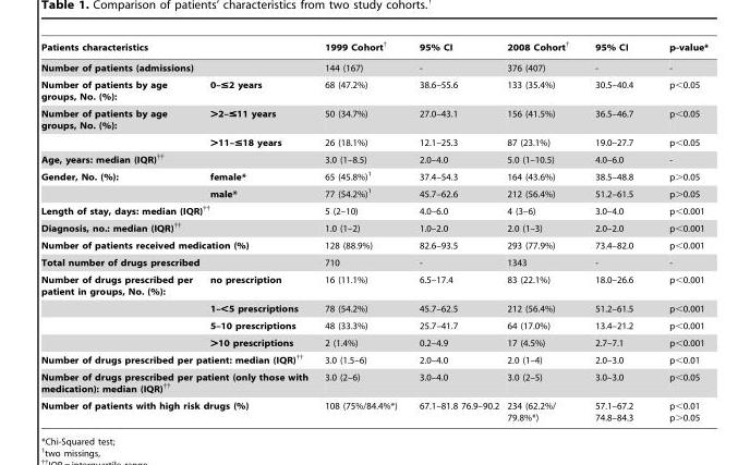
<table><thead><tr><td rowspan="2" colspan="2">Patients characteristics Number of patients (admissions)</td><td rowspan="3">1999 Cohort<sup>†</sup> 144 (167) 68 (47.2%)</td><td rowspan="3">95% CI - 38.6–55.6</td><td rowspan="3">2008 Cohort<sup>†</sup> 376 (407) 133 (35.4%)</td><td rowspan="3">95% CI - 30.5–40.4</td><td rowspan="3">p-value* - p&lt;0.05</td></tr><tr></tr><tr><td>Number of patients by age groups, No. (%):</td><td>0–≤2 years</td></tr></thead><tbody><tr><td rowspan="2">Number of patients by age groups, No. (%):</td><td>&gt;2–≤11 years</td><td>50 (34.7%)</td><td>27.0–43.1</td><td>156 (41.5%)</td><td>36.5–46.7</td><td>p&lt;0.05</td></tr><tr><td>&gt;11–≤18 years</td><td>26 (18.1%)</td><td>12.1–25.3</td><td>87 (23.1%)</td><td>19.0–27.7</td><td>p&lt;0.05</td></tr><tr><td colspan="2">Age, years: median (IQR)††</td><td>3.0 (1–8.5)</td><td>2.0–4.0</td><td>5.0 (1–10.5)</td><td>4.0–6.0</td><td>-</td></tr><tr><td rowspan="2">Gender, No. (%):</td><td>female*</td><td>65 (45.8%)<sup>1</sup></td><td>37.4–54.3</td><td>164 (43.6%)</td><td>38.5–48.8</td><td>p&gt;0.05</td></tr><tr><td>male*</td><td>77 (54.2%)<sup>1</sup></td><td>45.7–62.6</td><td>212 (56.4%)</td><td>51.2–61.5</td><td>p&gt;0.05</td></tr><tr><td colspan="2">Length of stay, days: median (IQR)††</td><td>5 (2–10)</td><td>4.0–6.0</td><td>4 (3–6)</td><td>3.0–4.0</td><td>p&lt;0.001</td></tr><tr><td colspan="2">Diagnosis, no.: median (IQR)††</td><td>1.0 (1–2)</td><td>1.0–2.0</td><td>2.0 (1–3)</td><td>2.0–2.0</td><td>p&lt;0.001</td></tr><tr><td colspan="2">Number of patients received medication (%)</td><td>128 (88.9%)</td><td>82.6–93.5</td><td>293 (77.9%)</td><td>73.4–82.0</td><td>p&lt;0.001</td></tr><tr><td colspan="2">Total number of drugs prescribed</td><td>710</td><td>-</td><td>1343</td><td>-</td><td>-</td></tr><tr><td rowspan="4">Number of drugs prescribed per patient in groups, No. (%):</td><td>no prescription</td><td>16 (11.1%)</td><td>6.5–17.4</td><td>83 (22.1%)</td><td>18.0–26.6</td><td>p&lt;0.001</td></tr><tr><td>1–&lt;5 prescriptions</td><td>78 (54.2%)</td><td>45.7–62.5</td><td>212 (56.4%)</td><td>51.2–61.5</td><td>p&lt;0.001</td></tr><tr><td>5–10 prescriptions</td><td>48 (33.3%)</td><td>25.7–41.7</td><td>64 (17.0%)</td><td>13.4–21.2</td><td>p&lt;0.001</td></tr><tr><td>&gt;10 prescriptions</td><td>2 (1.4%)</td><td>0.2–4.9</td><td>17 (4.5%)</td><td>2.7–7.1</td><td>p&lt;0.001</td></tr><tr><td colspan="2">Number of drugs prescribed per patient: median (IQR)††</td><td>3.0 (1.5–6)</td><td>2.0–4.0</td><td>2.0 (1–4)</td><td>2.0–3.0</td><td>p&lt;0.01</td></tr><tr><td colspan="2">Number of drugs prescribed per patient (only those with medication): median (IQR)††</td><td>3.0 (2–6)</td><td>3.0–4.0</td><td>3.0 (2–5)</td><td>3.0–3.0</td><td>p&lt;0.05</td></tr><tr><td colspan="2">Number of patients with high risk drugs (%)</td><td>108 (75%/84.4%*)</td><td>67.1–81.8 76.9–90.2</td><td>234 (62.2%/ 79.8%*)</td><td>57.1–67.2 74.8–84.3</td><td>p&lt;0.01 p&gt;0.05</td></tr></tbody></table>